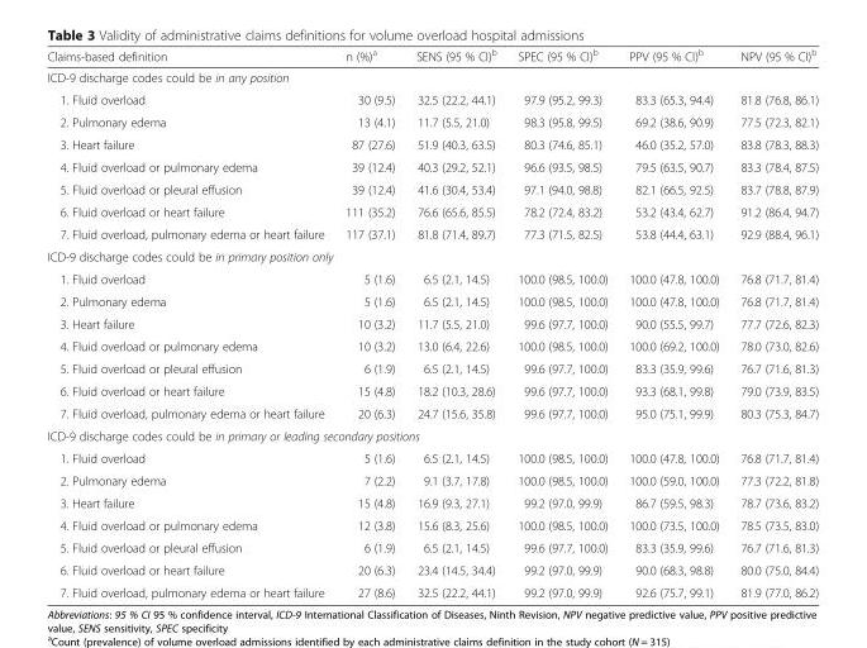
<table><thead><tr><td>Claims-based definition</td><td>n (%)<sup>a</sup></td><td>SENS (95 % CI)<sup>b</sup></td><td>SPEC (95 % CI)<sup>b</sup></td><td>PPV (95 % CI)<sup>b</sup></td><td>NPV (95 % CI)<sup>b</sup></td></tr></thead><tbody><tr><td colspan="6">ICD-9 discharge codes could be in any position</td></tr><tr><td>1. Fluid overload</td><td>30 (9.5)</td><td>32.5 (22.2, 44.1)</td><td>97.9 (95.2, 99.3)</td><td>83.3 (65.3, 94.4)</td><td>81.8 (76.8, 86.1)</td></tr><tr><td>2. Pulmonary edema</td><td>13 (4.1)</td><td>11.7 (5.5, 21.0)</td><td>98.3 (95.8, 99.5)</td><td>69.2 (38.6, 90.9)</td><td>77.5 (72.3, 82.1)</td></tr><tr><td>3. Heart failure</td><td>87 (27.6)</td><td>51.9 (40.3, 63.5)</td><td>80.3 (74.6, 85.1)</td><td>46.0 (35.2, 57.0)</td><td>83.8 (78.3, 88.3)</td></tr><tr><td>4. Fluid overload or pulmonary edema</td><td>39 (12.4)</td><td>40.3 (29.2, 52.1)</td><td>96.6 (93.5, 98.5)</td><td>79.5 (63.5, 90.7)</td><td>83.3 (78.4, 87.5)</td></tr><tr><td>5. Fluid overload or pleural effusion</td><td>39 (12.4)</td><td>41.6 (30.4, 53.4)</td><td>97.1 (94.0, 98.8)</td><td>82.1 (66.5, 92.5)</td><td>83.7 (78.8, 87.9)</td></tr><tr><td>6. Fluid overload or heart failure</td><td>111 (35.2)</td><td>76.6 (65.6, 85.5)</td><td>78.2 (72.4, 83.2)</td><td>53.2 (43.4, 62.7)</td><td>91.2 (86.4, 94.7)</td></tr><tr><td>7. Fluid overload, pulmonary edema or heart failure</td><td>117 (37.1)</td><td>81.8 (71.4, 89.7)</td><td>77.3 (71.5, 82.5)</td><td>53.8 (44.4, 63.1)</td><td>92.9 (88.4, 96.1)</td></tr><tr><td colspan="6">ICD-9 discharge codes could be in primary position only</td></tr><tr><td>1. Fluid overload</td><td>5 (1.6)</td><td>6.5 (2.1, 14.5)</td><td>100.0 (98.5, 100.0)</td><td>100.0 (47.8, 100.0)</td><td>76.8 (71.7, 81.4)</td></tr><tr><td>2. Pulmonary edema</td><td>5 (1.6)</td><td>6.5 (2.1, 14.5)</td><td>100.0 (98.5, 100.0)</td><td>100.0 (47.8, 100.0)</td><td>76.8 (71.7, 81.4)</td></tr><tr><td>3. Heart failure</td><td>10 (3.2)</td><td>11.7 (5.5, 21.0)</td><td>99.6 (97.7, 100.0)</td><td>90.0 (55.5, 99.7)</td><td>77.7 (72.6, 82.3)</td></tr><tr><td>4. Fluid overload or pulmonary edema</td><td>10 (3.2)</td><td>13.0 (6.4, 22.6)</td><td>100.0 (98.5, 100.0)</td><td>100.0 (69.2, 100.0)</td><td>78.0 (73.0, 82.6)</td></tr><tr><td>5. Fluid overload or pleural effusion</td><td>6 (1.9)</td><td>6.5 (2.1, 14.5)</td><td>99.6 (97.7, 100.0)</td><td>83.3 (35.9, 99.6)</td><td>76.7 (71.6, 81.3)</td></tr><tr><td>6. Fluid overload or heart failure</td><td>15 (4.8)</td><td>18.2 (10.3, 28.6)</td><td>99.6 (97.7, 100.0)</td><td>93.3 (68.1, 99.8)</td><td>79.0 (73.9, 83.5)</td></tr><tr><td>7. Fluid overload, pulmonary edema or heart failure</td><td>20 (6.3)</td><td>24.7 (15.6, 35.8)</td><td>99.6 (97.7, 100.0)</td><td>95.0 (75.1, 99.9)</td><td>80.3 (75.3, 84.7)</td></tr><tr><td colspan="6">ICD-9 discharge codes could be in primary or leading secondary positions</td></tr><tr><td>1. Fluid overload</td><td>5 (1.6)</td><td>6.5 (2.1, 14.5)</td><td>100.0 (98.5, 100.0)</td><td>100.0 (47.8, 100.0)</td><td>76.8 (71.7, 81.4)</td></tr><tr><td>2. Pulmonary edema</td><td>7 (2.2)</td><td>9.1 (3.7, 17.8)</td><td>100.0 (98.5, 100.0)</td><td>100.0 (59.0, 100.0)</td><td>77.3 (72.2, 81.8)</td></tr><tr><td>3. Heart failure</td><td>15 (4.8)</td><td>16.9 (9.3, 27.1)</td><td>99.2 (97.0, 99.9)</td><td>86.7 (59.5, 98.3)</td><td>78.7 (73.6, 83.2)</td></tr><tr><td>4. Fluid overload or pulmonary edema</td><td>12 (3.8)</td><td>15.6 (8.3, 25.6)</td><td>100.0 (98.5, 100.0)</td><td>100.0 (73.5, 100.0)</td><td>78.5 (73.5, 83.0)</td></tr><tr><td>5. Fluid overload or pleural effusion</td><td>6 (1.9)</td><td>6.5 (2.1, 14.5)</td><td>99.6 (97.7, 100.0)</td><td>83.3 (35.9, 99.6)</td><td>76.7 (71.6, 81.3)</td></tr><tr><td>6. Fluid overload or heart failure</td><td>20 (6.3)</td><td>23.4 (14.5, 34.4)</td><td>99.2 (97.0, 99.9)</td><td>90.0 (68.3, 98.8)</td><td>80.0 (75.0, 84.4)</td></tr><tr><td>7. Fluid overload, pulmonary edema or heart failure</td><td>27 (8.6)</td><td>32.5 (22.2, 44.1)</td><td>99.2 (97.0, 99.9)</td><td>92.6 (75.7, 99.1)</td><td>81.9 (77.0, 86.2)</td></tr></tbody></table>